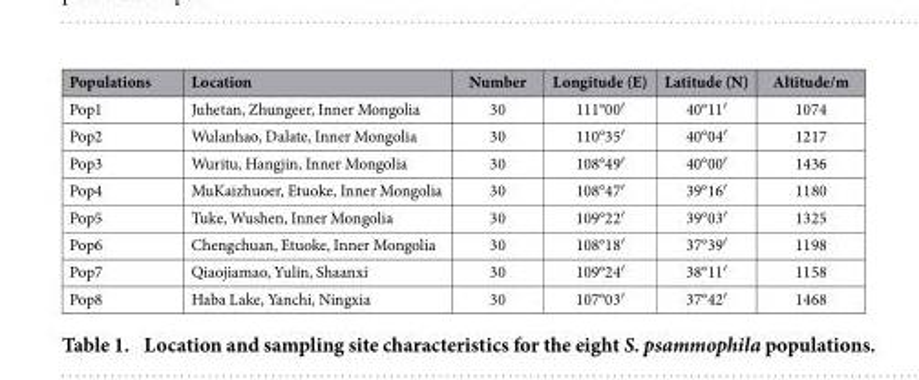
<table><thead><tr><td>Populations</td><td>Location</td><td>Number</td><td>Longitude (E)</td><td>Latitude (N)</td><td>Altitude/m</td></tr></thead><tbody><tr><td>Pop1</td><td>Juhetan, Zhungeer, Inner Mongolia</td><td>30</td><td>111°00′</td><td>40°11′</td><td>1074</td></tr><tr><td>Pop2</td><td>Wulanhao, Dalate, Inner Mongolia</td><td>30</td><td>110°35′</td><td>40°04′</td><td>1217</td></tr><tr><td>Pop3</td><td>Wuritu, Hangjin, Inner Mongolia</td><td>30</td><td>108°49′</td><td>40°00′</td><td>1436</td></tr><tr><td>Pop4</td><td>MuKaizhuoer, Etuoke, Inner Mongolia</td><td>30</td><td>108°47′</td><td>39°16′</td><td>1180</td></tr><tr><td>Pop5</td><td>Tuke, Wushen, Inner Mongolia</td><td>30</td><td>109°22′</td><td>39°03′</td><td>1325</td></tr><tr><td>Pop6</td><td>Chengchuan, Etuoke, Inner Mongolia</td><td>30</td><td>108°18′</td><td>37°39′</td><td>1198</td></tr><tr><td>Pop7</td><td>Qiaojiamao, Yulin, Shaanxi</td><td>30</td><td>109°24′</td><td>38°11′</td><td>1158</td></tr><tr><td>Pop8</td><td>Haba Lake, Yanchi, Ningxia</td><td>30</td><td>107°03′</td><td>37°42′</td><td>1468</td></tr></tbody></table>